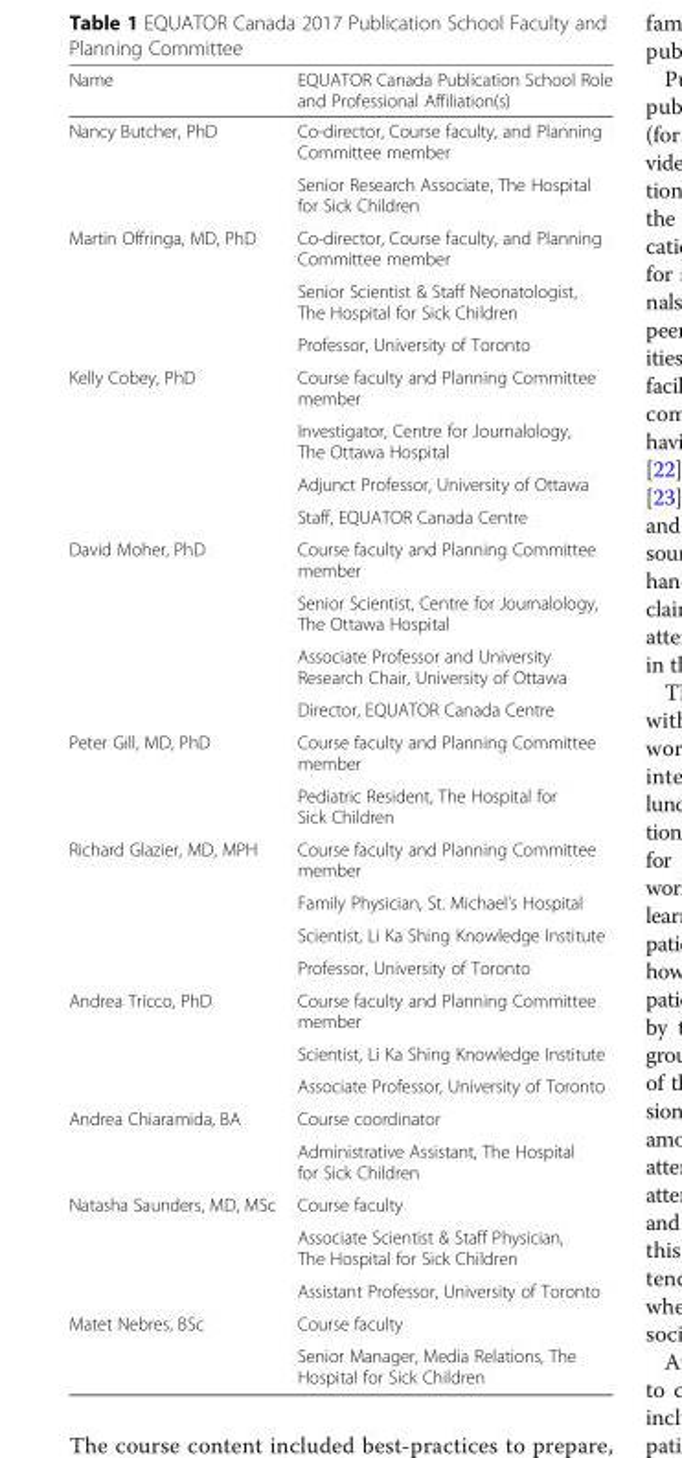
<table><thead><tr><td>Name</td><td>EQUATOR Canada Publication School Role and Professional Affiliation(s)</td></tr></thead><tbody><tr><td rowspan="2">Nancy Butcher, PhD</td><td>Co-director, Course faculty, and Planning Committee member</td></tr><tr><td>Senior Research Associate, The Hospital for Sick Children</td></tr><tr><td rowspan="3">Martin Offringa, MD, PhD</td><td>Co-director, Course faculty, and Planning Committee member</td></tr><tr><td>Senior Scientist &amp; Staff Neonatologist, The Hospital for Sick Children</td></tr><tr><td>Professor, University of Toronto</td></tr><tr><td rowspan="4">Kelly Cobey, PhD</td><td>Course faculty and Planning Committee member</td></tr><tr><td>Investigator, Centre for Journalology, The Ottawa Hospital</td></tr><tr><td>Adjunct Professor, University of Ottawa</td></tr><tr><td>Staff, EQUATOR Canada Centre</td></tr><tr><td rowspan="4">David Moher, PhD</td><td>Course faculty and Planning Committee member</td></tr><tr><td>Senior Scientist, Centre for Journalology, The Ottawa Hospital</td></tr><tr><td>Associate Professor and University Research Chair, University of Ottawa</td></tr><tr><td>Director, EQUATOR Canada Centre</td></tr><tr><td rowspan="2">Peter Gill, MD, PhD</td><td>Course faculty and Planning Committee member</td></tr><tr><td>Pediatric Resident, The Hospital for Sick Children</td></tr><tr><td rowspan="4">Richard Glazier, MD, MPH</td><td>Course faculty and Planning Committee member</td></tr><tr><td>Family Physician, St. Michael’s Hospital</td></tr><tr><td>Scientist, Li Ka Shing Knowledge Institute</td></tr><tr><td>Professor, University of Toronto</td></tr><tr><td rowspan="3">Andrea Tricco, PhD</td><td>Course faculty and Planning Committee member</td></tr><tr><td>Scientist, Li Ka Shing Knowledge Institute</td></tr><tr><td>Associate Professor, University of Toronto</td></tr><tr><td rowspan="2">Andrea Chiaramida, BA</td><td>Course coordinator</td></tr><tr><td>Administrative Assistant, The Hospital for Sick Children</td></tr><tr><td rowspan="3">Natasha Saunders, MD, MSc</td><td>Course faculty</td></tr><tr><td>Associate Scientist &amp; Staff Physician, The Hospital for Sick Children</td></tr><tr><td>Assistant Professor, University of Toronto</td></tr><tr><td rowspan="2">Matet Nebres, BSc</td><td>Course faculty</td></tr><tr><td>Senior Manager, Media Relations, The Hospital for Sick Children</td></tr></tbody></table>